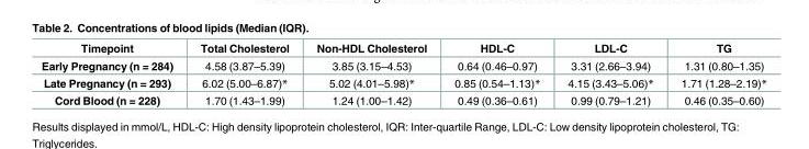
<table><thead><tr><td>Timepoint</td><td>Total Cholesterol</td><td>Non-HDL Cholesterol</td><td>HDL-C</td><td>LDL-C</td><td>TG</td></tr></thead><tbody><tr><td>Early Pregnancy (n = 284)</td><td>4.58 (3.87–5.39)</td><td>3.85 (3.15–4.53)</td><td>0.64 (0.46–0.97)</td><td>3.31 (2.66–3.94)</td><td>1.31 (0.80–1.35)</td></tr><tr><td>Late Pregnancy (n = 293)</td><td>6.02 (5.00–6.87)*</td><td>5.02 (4.01–5.98)*</td><td>0.85 (0.54–1.13)*</td><td>4.15 (3.43–5.06)*</td><td>1.71 (1.28–2.19)*</td></tr><tr><td>Cord Blood (n = 228)</td><td>1.70 (1.43–1.99)</td><td>1.24 (1.00–1.42)</td><td>0.49 (0.36–0.61)</td><td>0.99 (0.79–1.21)</td><td>0.46 (0.35–0.60)</td></tr></tbody></table>